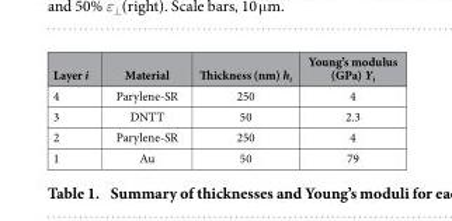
<table><thead><tr><td>Layer i</td><td>Material</td><td>Thickness (nm) h<sub>i</sub></td><td>Young’s modulus (GPa) Y<sub>i</sub></td></tr></thead><tbody><tr><td>4</td><td>Parylene-SR</td><td>250</td><td>4</td></tr><tr><td>3</td><td>DNTT</td><td>50</td><td>2.3</td></tr><tr><td>2</td><td>Parylene-SR</td><td>250</td><td>4</td></tr><tr><td>1</td><td>Au</td><td>50</td><td>79</td></tr></tbody></table>